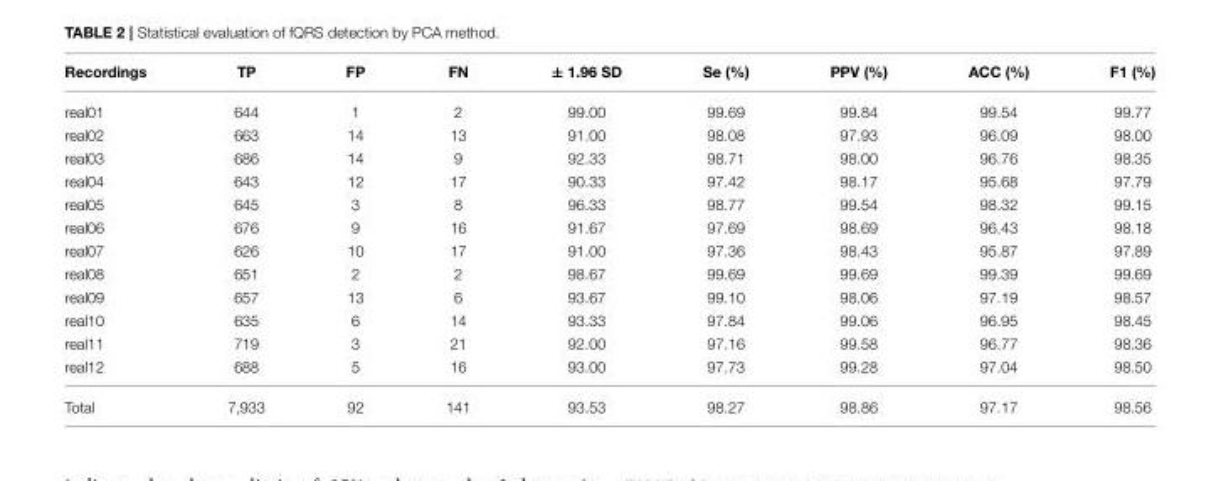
<table><thead><tr><td>Recordings</td><td>TP</td><td>FP</td><td>FN</td><td>± 1.96 SD</td><td>Se (%)</td><td>PPV (%)</td><td>ACC (%)</td><td>F1 (%)</td></tr></thead><tbody><tr><td>real01</td><td>644</td><td>1</td><td>2</td><td>99.00</td><td>99.69</td><td>99.84</td><td>99.54</td><td>99.77</td></tr><tr><td>real02</td><td>663</td><td>14</td><td>13</td><td>91.00</td><td>98.08</td><td>97.93</td><td>96.09</td><td>98.00</td></tr><tr><td>real03</td><td>686</td><td>14</td><td>9</td><td>92.33</td><td>98.71</td><td>98.00</td><td>96.76</td><td>98.35</td></tr><tr><td>real04</td><td>643</td><td>12</td><td>17</td><td>90.33</td><td>97.42</td><td>98.17</td><td>95.68</td><td>97.79</td></tr><tr><td>real05</td><td>645</td><td>3</td><td>8</td><td>96.33</td><td>98.77</td><td>99.54</td><td>98.32</td><td>99.15</td></tr><tr><td>real06</td><td>676</td><td>9</td><td>16</td><td>91.67</td><td>97.69</td><td>98.69</td><td>96.43</td><td>98.18</td></tr><tr><td>real07</td><td>626</td><td>10</td><td>17</td><td>91.00</td><td>97.36</td><td>98.43</td><td>95.87</td><td>97.89</td></tr><tr><td>real08</td><td>651</td><td>2</td><td>2</td><td>98.67</td><td>99.69</td><td>99.69</td><td>99.39</td><td>99.69</td></tr><tr><td>real09</td><td>657</td><td>13</td><td>6</td><td>93.67</td><td>99.10</td><td>98.06</td><td>97.19</td><td>98.57</td></tr><tr><td>real10</td><td>635</td><td>6</td><td>14</td><td>93.33</td><td>97.84</td><td>99.06</td><td>96.95</td><td>98.45</td></tr><tr><td>real11</td><td>719</td><td>3</td><td>21</td><td>92.00</td><td>97.16</td><td>99.58</td><td>96.77</td><td>98.36</td></tr><tr><td>real12</td><td>688</td><td>5</td><td>16</td><td>93.00</td><td>97.73</td><td>99.28</td><td>97.04</td><td>98.50</td></tr><tr><td>Total</td><td>7,933</td><td>92</td><td>141</td><td>93.53</td><td>98.27</td><td>98.86</td><td>97.17</td><td>98.56</td></tr></tbody></table>